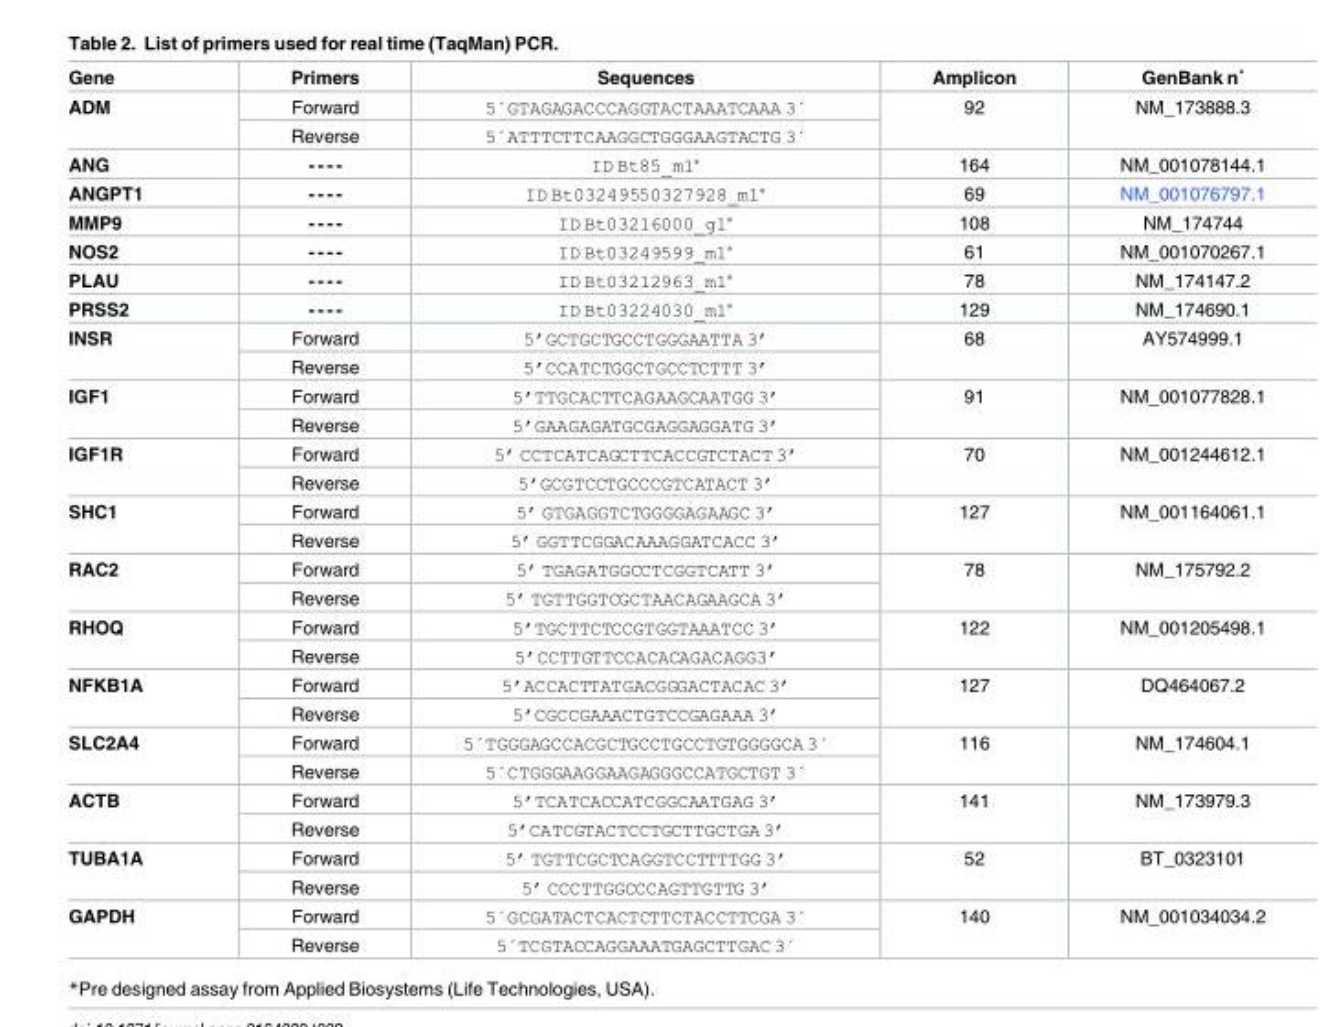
<table><thead><tr><td>Gene</td><td>Primers</td><td>Sequences</td><td>Amplicon</td><td>GenBank n˚</td></tr></thead><tbody><tr><td rowspan="2">ADM</td><td>Forward</td><td>5´GTAGAGACCCAGGTACTAAATCAAA 3´</td><td rowspan="2">92</td><td rowspan="2">NM_173888.3</td></tr><tr><td>Reverse</td><td>5´ATTTCTTCAAGGCTGGGAAGTACTG 3´</td></tr><tr><td>ANG</td><td>- - - -</td><td>ID Bt85_m1*</td><td>164</td><td>NM_001078144.1</td></tr><tr><td>ANGPT1</td><td>- - - -</td><td>ID Bt03249550327928_m1*</td><td>69</td><td>NM_001076797.1</td></tr><tr><td>MMP9</td><td>- - - -</td><td>ID Bt03216000_g1*</td><td>108</td><td>NM_174744</td></tr><tr><td>NOS2</td><td>- - - -</td><td>ID Bt03249599_m1*</td><td>61</td><td>NM_001070267.1</td></tr><tr><td>PLAU</td><td>- - - -</td><td>ID Bt03212963_m1*</td><td>78</td><td>NM_174147.2</td></tr><tr><td>PRSS2</td><td>- - - -</td><td>ID Bt03224030_m1*</td><td>129</td><td>NM_174690.1</td></tr><tr><td rowspan="2">INSR</td><td>Forward</td><td>5’GCTGCTGCCTGGGAATTA 3’</td><td rowspan="2">68</td><td rowspan="2">AY574999.1</td></tr><tr><td>Reverse</td><td>5’CCATCTGGCTGCCTCTTT 3’</td></tr><tr><td rowspan="2">IGF1</td><td>Forward</td><td>5’TTGCACTTCAGAAGCAATGG 3’</td><td rowspan="2">91</td><td rowspan="2">NM_001077828.1</td></tr><tr><td>Reverse</td><td>5’GAAGAGATGCGAGGAGGATG 3’</td></tr><tr><td rowspan="2">IGF1R</td><td>Forward</td><td>5’ CCTCATCAGCTTCACCGTCTACT 3’</td><td rowspan="2">70</td><td rowspan="2">NM_001244612.1</td></tr><tr><td>Reverse</td><td>5’GCGTCCTGCCCGTCATACT 3’</td></tr><tr><td rowspan="2">SHC1</td><td>Forward</td><td>5’ GTGAGGTCTGGGGAGAAGC 3’</td><td rowspan="2">127</td><td rowspan="2">NM_001164061.1</td></tr><tr><td>Reverse</td><td>5’ GGTTCGGACAAAGGATCACC 3’</td></tr><tr><td rowspan="2">RAC2</td><td>Forward</td><td>5’ TGAGATGGCCTCGGTCATT 3’</td><td rowspan="2">78</td><td rowspan="2">NM_175792.2</td></tr><tr><td>Reverse</td><td>5’ TGTTGGTCGCTAACAGAAGCA 3’</td></tr><tr><td rowspan="2">RHOQ</td><td>Forward</td><td>5’TGCTTCTCCGTGGTAAATCC 3’</td><td rowspan="2">122</td><td rowspan="2">NM_001205498.1</td></tr><tr><td>Reverse</td><td>5’CCTTGTTCCACACAGACAGG3’</td></tr><tr><td rowspan="2">NFKB1A</td><td>Forward</td><td>5’ACCACTTATGACGGGACTACAC 3’</td><td rowspan="2">127</td><td rowspan="2">DQ464067.2</td></tr><tr><td>Reverse</td><td>5’CGCCGAAACTGTCCGAGAAA 3’</td></tr><tr><td rowspan="2">SLC2A4</td><td>Forward</td><td>5´TGGGAGCCACGCTGCCTGCCTGTGGGGCA 3´</td><td rowspan="2">116</td><td rowspan="2">NM_174604.1</td></tr><tr><td>Reverse</td><td>5´CTGGGAAGGAAGAGGGCCATGCTGT 3´</td></tr><tr><td rowspan="2">ACTB</td><td>Forward</td><td>5’TCATCACCATCGGCAATGAG 3’</td><td rowspan="2">141</td><td rowspan="2">NM_173979.3</td></tr><tr><td>Reverse</td><td>5’CATCGTACTCCTGCTTGCTGA 3’</td></tr><tr><td rowspan="2">TUBA1A</td><td>Forward</td><td>5’ TGTTCGCTCAGGTCCTTTTGG 3’</td><td rowspan="2">52</td><td rowspan="2">BT_0323101</td></tr><tr><td>Reverse</td><td>5’ CCCTTGGCCCAGTTGTTG 3’</td></tr><tr><td rowspan="2">GAPDH</td><td>Forward</td><td>5´GCGATACTCACTCTTCTACCTTCGA 3´</td><td rowspan="2">140</td><td rowspan="2">NM_001034034.2</td></tr><tr><td>Reverse</td><td>5´TCGTACCAGGAAATGAGCTTGAC 3´</td></tr></tbody></table>